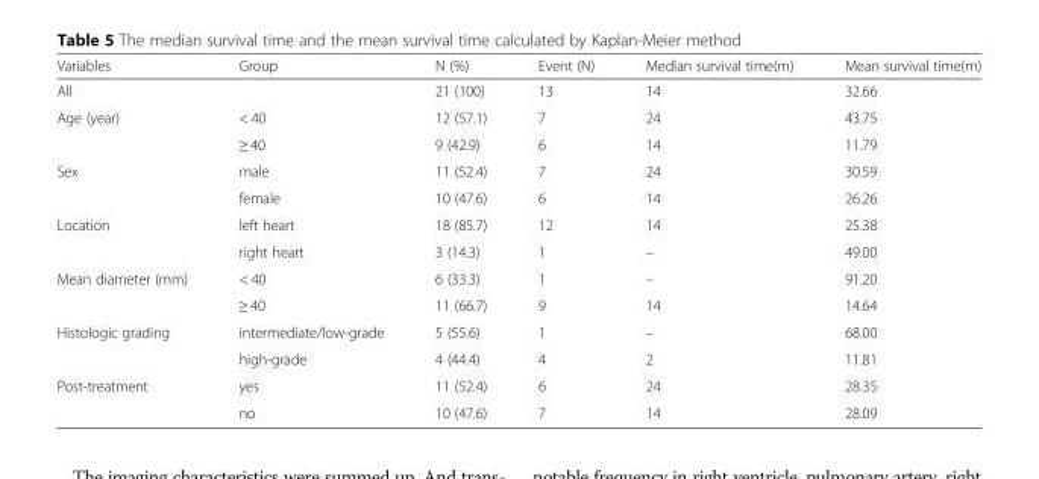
<table><thead><tr><td>Variables</td><td>Group</td><td>N (%)</td><td>Event (N)</td><td>Median survival time(m)</td><td>Mean survival time(m)</td></tr></thead><tbody><tr><td>All</td><td></td><td>21 (100)</td><td>13</td><td>14</td><td>32.66</td></tr><tr><td rowspan="2">Age (year)</td><td>&lt; 40</td><td>12 (57.1)</td><td>7</td><td>24</td><td>43.75</td></tr><tr><td>≥ 40</td><td>9 (42.9)</td><td>6</td><td>14</td><td>11.79</td></tr><tr><td rowspan="2">Sex</td><td>male</td><td>11 (52.4)</td><td>7</td><td>24</td><td>30.59</td></tr><tr><td>female</td><td>10 (47.6)</td><td>6</td><td>14</td><td>26.26</td></tr><tr><td rowspan="2">Location</td><td>left heart</td><td>18 (85.7)</td><td>12</td><td>14</td><td>25.38</td></tr><tr><td>right heart</td><td>3 (14.3)</td><td>1</td><td>–</td><td>49.00</td></tr><tr><td rowspan="2">Mean diameter (mm)</td><td>&lt; 40</td><td>6 (33.3)</td><td>1</td><td>–</td><td>91.20</td></tr><tr><td>≥ 40</td><td>11 (66.7)</td><td>9</td><td>14</td><td>14.64</td></tr><tr><td rowspan="2">Histologic grading</td><td>intermediate/low-grade</td><td>5 (55.6)</td><td>1</td><td>–</td><td>68.00</td></tr><tr><td>high-grade</td><td>4 (44.4)</td><td>4</td><td>2</td><td>11.81</td></tr><tr><td rowspan="2">Post-treatment</td><td>yes</td><td>11 (52.4)</td><td>6</td><td>24</td><td>28.35</td></tr><tr><td>no</td><td>10 (47.6)</td><td>7</td><td>14</td><td>28.09</td></tr></tbody></table>